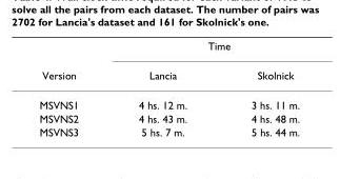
<table><thead><tr><td rowspan="2">Version</td><td colspan="2">Time</td></tr><tr><td>Lancia</td><td>Skolnick</td></tr></thead><tbody><tr><td>MSVNS1</td><td>4 hs. 12 m.</td><td>3 hs. 11 m.</td></tr><tr><td>MSVNS2</td><td>4 hs. 43 m.</td><td>4 hs. 48 m.</td></tr><tr><td>MSVNS3</td><td>5 hs. 7 m.</td><td>5 hs. 44 m.</td></tr></tbody></table>